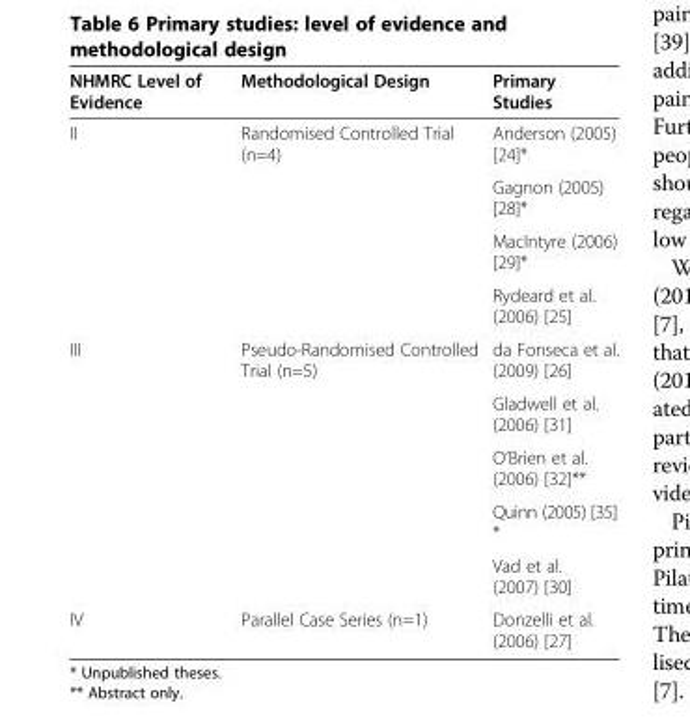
<table><thead><tr><td>NHMRC Level of Evidence</td><td>Methodological Design</td><td>Primary Studies</td></tr></thead><tbody><tr><td rowspan="4">II</td><td rowspan="4">Randomised Controlled Trial (n=4)</td><td>Anderson (2005) [24]*</td></tr><tr><td>Gagnon (2005) [28]*</td></tr><tr><td>MacIntyre (2006) [29]*</td></tr><tr><td>Rydeard et al. (2006) [25]</td></tr><tr><td rowspan="5">III</td><td rowspan="5">Pseudo-Randomised Controlled Trial (n=5)</td><td>da Fonseca et al. (2009) [26]</td></tr><tr><td>Gladwell et al. (2006) [31]</td></tr><tr><td>O’Brien et al. (2006) [32]**</td></tr><tr><td>Quinn (2005) [35] *</td></tr><tr><td>Vad et al. (2007) [30]</td></tr><tr><td>IV</td><td>Parallel Case Series (n=1)</td><td>Donzelli et al. (2006) [27]</td></tr></tbody></table>